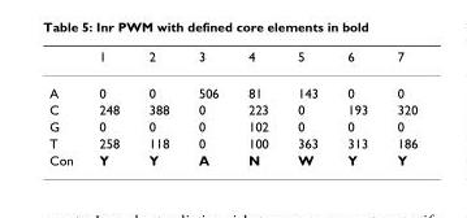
<table><thead><tr><td></td><td>1</td><td>2</td><td>3</td><td>4</td><td>5</td><td>6</td><td>7</td></tr></thead><tbody><tr><td>A</td><td>0</td><td>0</td><td>506</td><td>81</td><td>143</td><td>0</td><td>0</td></tr><tr><td>C</td><td>248</td><td>388</td><td>0</td><td>223</td><td>0</td><td>193</td><td>320</td></tr><tr><td>G</td><td>0</td><td>0</td><td>0</td><td>102</td><td>0</td><td>0</td><td>0</td></tr><tr><td>T</td><td>258</td><td>118</td><td>0</td><td>100</td><td>363</td><td>313</td><td>186</td></tr><tr><td>Con</td><td>Y</td><td>Y</td><td>A</td><td>N</td><td>W</td><td>Y</td><td>Y</td></tr></tbody></table>